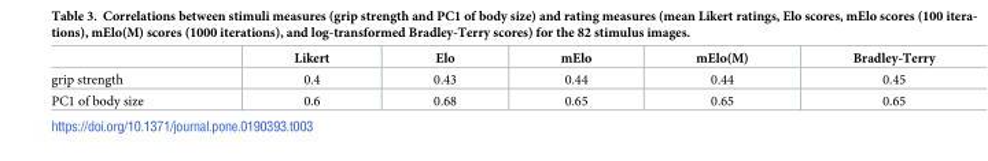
<table><thead><tr><td></td><td>Likert</td><td>Elo</td><td>mElo</td><td>mElo(M)</td><td>Bradley-Terry</td></tr></thead><tbody><tr><td>grip strength</td><td>0.4</td><td>0.43</td><td>0.44</td><td>0.44</td><td>0.45</td></tr><tr><td>PC1 of body size</td><td>0.6</td><td>0.68</td><td>0.65</td><td>0.65</td><td>0.65</td></tr></tbody></table>